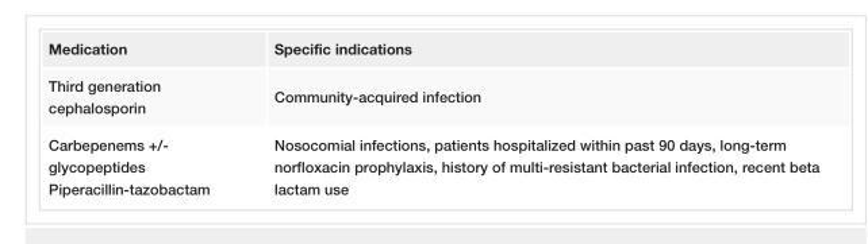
<table><tbody><tr><td>Medication</td><td>Specific indications</td></tr><tr><td>Third generation cephalosporin</td><td>Community-acquired infection</td></tr><tr><td>Carbepenems +/- glycopeptides Piperacillin-tazobactam</td><td>Nosocomial infections, patients hospitalized within past 90 days, long-term norfloxacin prophylaxis, history of multi-resistant bacterial infection, recent beta lactam use</td></tr></tbody></table>